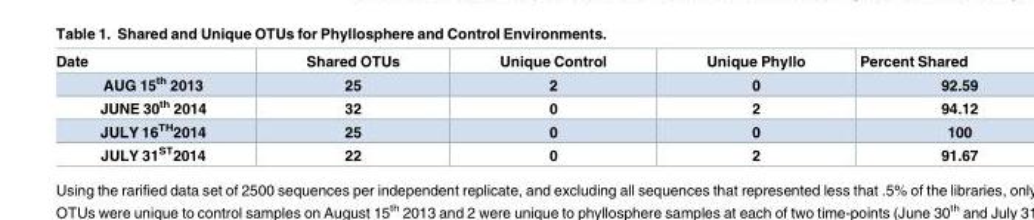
<table><thead><tr><td>Date</td><td>Shared OTUs</td><td>Unique Control</td><td>Unique Phyllo</td><td>Percent Shared</td></tr></thead><tbody><tr><td>AUG 15<sup>th</sup> 2013</td><td>25</td><td>2</td><td>0</td><td>92.59</td></tr><tr><td>JUNE 30<sup>th</sup> 2014</td><td>32</td><td>0</td><td>2</td><td>94.12</td></tr><tr><td>JULY 16<sup>TH</sup>2014</td><td>25</td><td>0</td><td>0</td><td>100</td></tr><tr><td>JULY 31<sup>ST</sup>2014</td><td>22</td><td>0</td><td>2</td><td>91.67</td></tr></tbody></table>